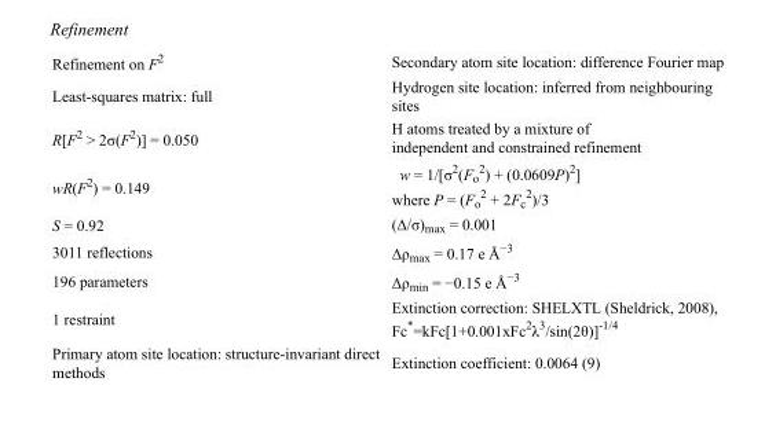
<table><tbody><tr><td>Refinement on F<sup>2</sup></td><td>Secondary atom site location: difference Fourier map</td></tr><tr><td>Least-squares matrix: full</td><td>Hydrogen site location: inferred from neighbouring sites</td></tr><tr><td>R[F<sup>2</sup> &gt; 2σ(F<sup>2</sup>)] = 0.050</td><td>H atoms treated by a mixture of independent and constrained refinement</td></tr><tr><td>wR(F<sup>2</sup>) = 0.149</td><td>w = 1/[σ<sup>2</sup>(F<sub>o</sub> <sup>2</sup>) + (0.0609P)<sup>2</sup>] where P = (F<sub>o</sub> <sup>2</sup> + 2F<sub>c</sub> <sup>2</sup>)/3</td></tr><tr><td>S = 0.92</td><td>(Δ/σ)<sub>max</sub> = 0.001</td></tr><tr><td>3011 reflections</td><td>Δρ<sub>max</sub> = 0.17 e Å<sup>−3</sup></td></tr><tr><td>196 parameters</td><td>Δρ<sub>min</sub> = −0.15 e Å<sup>−3</sup></td></tr><tr><td>1 restraint</td><td>Extinction correction: SHELXTL (Sheldrick, 2008), Fc*=kFc[1+0.001xFc<sup>2</sup>λ<sup>3</sup>/sin(2θ)]<sup>-1/4</sup></td></tr><tr><td>Primary atom site location: structure-invariant direct methods</td><td>Extinction coefficient: 0.0064 (9)</td></tr></tbody></table>